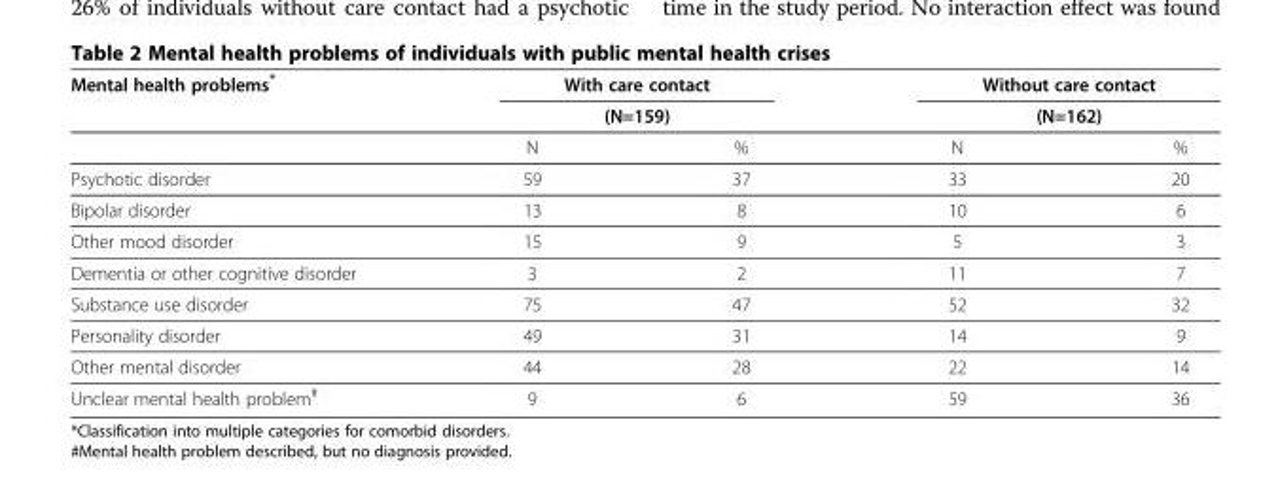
<table><thead><tr><td rowspan="3">Mental health problems*</td><td rowspan="2" colspan="2">With care contact (N=159)</td><td rowspan="2" colspan="2">Without care contact (N=162)</td></tr><tr></tr><tr><td>N</td><td>%</td><td>N</td><td>%</td></tr></thead><tbody><tr><td>Psychotic disorder</td><td>59</td><td>37</td><td>33</td><td>20</td></tr><tr><td>Bipolar disorder</td><td>13</td><td>8</td><td>10</td><td>6</td></tr><tr><td>Other mood disorder</td><td>15</td><td>9</td><td>5</td><td>3</td></tr><tr><td>Dementia or other cognitive disorder</td><td>3</td><td>2</td><td>11</td><td>7</td></tr><tr><td>Substance use disorder</td><td>75</td><td>47</td><td>52</td><td>32</td></tr><tr><td>Personality disorder</td><td>49</td><td>31</td><td>14</td><td>9</td></tr><tr><td>Other mental disorder</td><td>44</td><td>28</td><td>22</td><td>14</td></tr><tr><td>Unclear mental health problem<sup>#</sup></td><td>9</td><td>6</td><td>59</td><td>36</td></tr></tbody></table>